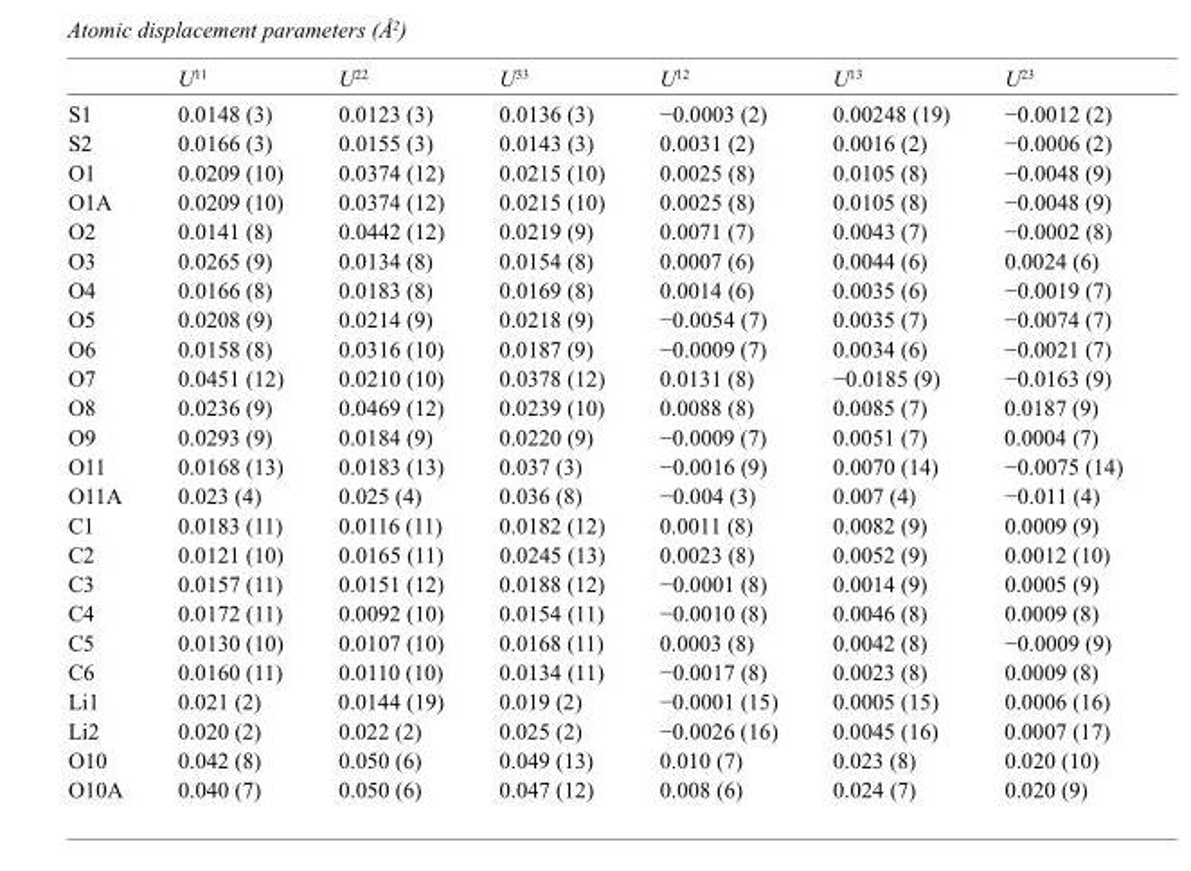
<table><thead><tr><td></td><td>U<sup>11</sup></td><td>U<sup>22</sup></td><td>U<sup>33</sup></td><td>U<sup>12</sup></td><td>U<sup>13</sup></td><td>U<sup>23</sup></td></tr></thead><tbody><tr><td>S1</td><td>0.0148 (3)</td><td>0.0123 (3)</td><td>0.0136 (3)</td><td>−0.0003 (2)</td><td>0.00248 (19)</td><td>−0.0012 (2)</td></tr><tr><td>S2</td><td>0.0166 (3)</td><td>0.0155 (3)</td><td>0.0143 (3)</td><td>0.0031 (2)</td><td>0.0016 (2)</td><td>−0.0006 (2)</td></tr><tr><td>O1</td><td>0.0209 (10)</td><td>0.0374 (12)</td><td>0.0215 (10)</td><td>0.0025 (8)</td><td>0.0105 (8)</td><td>−0.0048 (9)</td></tr><tr><td>O1A</td><td>0.0209 (10)</td><td>0.0374 (12)</td><td>0.0215 (10)</td><td>0.0025 (8)</td><td>0.0105 (8)</td><td>−0.0048 (9)</td></tr><tr><td>O2</td><td>0.0141 (8)</td><td>0.0442 (12)</td><td>0.0219 (9)</td><td>0.0071 (7)</td><td>0.0043 (7)</td><td>−0.0002 (8)</td></tr><tr><td>O3</td><td>0.0265 (9)</td><td>0.0134 (8)</td><td>0.0154 (8)</td><td>0.0007 (6)</td><td>0.0044 (6)</td><td>0.0024 (6)</td></tr><tr><td>O4</td><td>0.0166 (8)</td><td>0.0183 (8)</td><td>0.0169 (8)</td><td>0.0014 (6)</td><td>0.0035 (6)</td><td>−0.0019 (7)</td></tr><tr><td>O5</td><td>0.0208 (9)</td><td>0.0214 (9)</td><td>0.0218 (9)</td><td>−0.0054 (7)</td><td>0.0035 (7)</td><td>−0.0074 (7)</td></tr><tr><td>O6</td><td>0.0158 (8)</td><td>0.0316 (10)</td><td>0.0187 (9)</td><td>−0.0009 (7)</td><td>0.0034 (6)</td><td>−0.0021 (7)</td></tr><tr><td>O7</td><td>0.0451 (12)</td><td>0.0210 (10)</td><td>0.0378 (12)</td><td>0.0131 (8)</td><td>−0.0185 (9)</td><td>−0.0163 (9)</td></tr><tr><td>O8</td><td>0.0236 (9)</td><td>0.0469 (12)</td><td>0.0239 (10)</td><td>0.0088 (8)</td><td>0.0085 (7)</td><td>0.0187 (9)</td></tr><tr><td>O9</td><td>0.0293 (9)</td><td>0.0184 (9)</td><td>0.0220 (9)</td><td>−0.0009 (7)</td><td>0.0051 (7)</td><td>0.0004 (7)</td></tr><tr><td>O11</td><td>0.0168 (13)</td><td>0.0183 (13)</td><td>0.037 (3)</td><td>−0.0016 (9)</td><td>0.0070 (14)</td><td>−0.0075 (14)</td></tr><tr><td>O11A</td><td>0.023 (4)</td><td>0.025 (4)</td><td>0.036 (8)</td><td>−0.004 (3)</td><td>0.007 (4)</td><td>−0.011 (4)</td></tr><tr><td>C1</td><td>0.0183 (11)</td><td>0.0116 (11)</td><td>0.0182 (12)</td><td>0.0011 (8)</td><td>0.0082 (9)</td><td>0.0009 (9)</td></tr><tr><td>C2</td><td>0.0121 (10)</td><td>0.0165 (11)</td><td>0.0245 (13)</td><td>0.0023 (8)</td><td>0.0052 (9)</td><td>0.0012 (10)</td></tr><tr><td>C3</td><td>0.0157 (11)</td><td>0.0151 (12)</td><td>0.0188 (12)</td><td>−0.0001 (8)</td><td>0.0014 (9)</td><td>0.0005 (9)</td></tr><tr><td>C4</td><td>0.0172 (11)</td><td>0.0092 (10)</td><td>0.0154 (11)</td><td>−0.0010 (8)</td><td>0.0046 (8)</td><td>0.0009 (8)</td></tr><tr><td>C5</td><td>0.0130 (10)</td><td>0.0107 (10)</td><td>0.0168 (11)</td><td>0.0003 (8)</td><td>0.0042 (8)</td><td>−0.0009 (9)</td></tr><tr><td>C6</td><td>0.0160 (11)</td><td>0.0110 (10)</td><td>0.0134 (11)</td><td>−0.0017 (8)</td><td>0.0023 (8)</td><td>0.0009 (8)</td></tr><tr><td>Li1</td><td>0.021 (2)</td><td>0.0144 (19)</td><td>0.019 (2)</td><td>−0.0001 (15)</td><td>0.0005 (15)</td><td>0.0006 (16)</td></tr><tr><td>Li2</td><td>0.020 (2)</td><td>0.022 (2)</td><td>0.025 (2)</td><td>−0.0026 (16)</td><td>0.0045 (16)</td><td>0.0007 (17)</td></tr><tr><td>O10</td><td>0.042 (8)</td><td>0.050 (6)</td><td>0.049 (13)</td><td>0.010 (7)</td><td>0.023 (8)</td><td>0.020 (10)</td></tr><tr><td>O10A</td><td>0.040 (7)</td><td>0.050 (6)</td><td>0.047 (12)</td><td>0.008 (6)</td><td>0.024 (7)</td><td>0.020 (9)</td></tr></tbody></table>